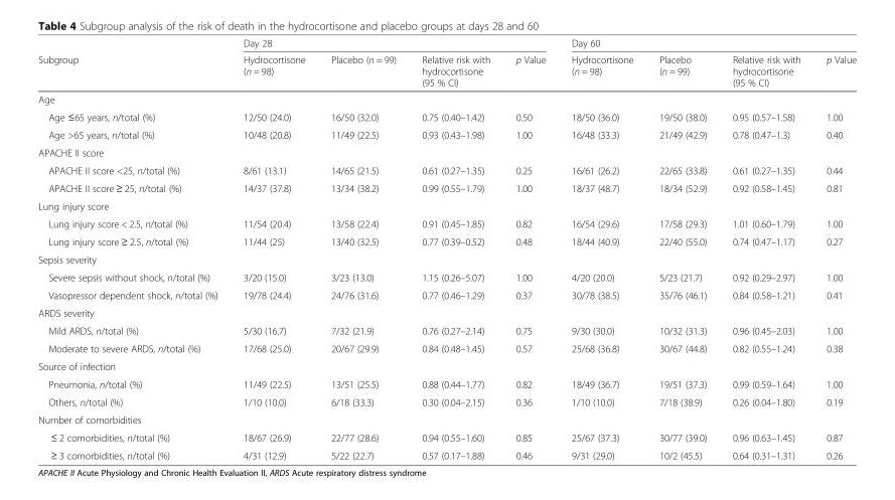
<table><thead><tr><td rowspan="2">Subgroup</td><td colspan="4">Day 28</td><td colspan="4">Day 60</td></tr><tr><td>Hydrocortisone (n = 98)</td><td>Placebo (n = 99)</td><td>Relative risk with hydrocortisone (95 % CI)</td><td>p Value</td><td>Hydrocortisone (n = 98)</td><td>Placebo (n = 99)</td><td>Relative risk with hydrocortisone (95 % CI)</td><td>p Value</td></tr></thead><tbody><tr><td colspan="9">Age</td></tr><tr><td>Age ≤65 years, n/total (%)</td><td>12/50 (24.0)</td><td>16/50 (32.0)</td><td>0.75 (0.40–1.42)</td><td>0.50</td><td>18/50 (36.0)</td><td>19/50 (38.0)</td><td>0.95 (0.57–1.58)</td><td>1.00</td></tr><tr><td>Age &gt;65 years, n/total (%)</td><td>10/48 (20.8)</td><td>11/49 (22.5)</td><td>0.93 (0.43–1.98)</td><td>1.00</td><td>16/48 (33.3)</td><td>21/49 (42.9)</td><td>0.78 (0.47–1.3)</td><td>0.40</td></tr><tr><td colspan="9">APACHE II score</td></tr><tr><td>APACHE II score &lt;25, n/total (%)</td><td>8/61 (13.1)</td><td>14/65 (21.5)</td><td>0.61 (0.27–1.35)</td><td>0.25</td><td>16/61 (26.2)</td><td>22/65 (33.8)</td><td>0.61 (0.27–1.35)</td><td>0.44</td></tr><tr><td>APACHE II score ≥ 25, n/total (%)</td><td>14/37 (37.8)</td><td>13/34 (38.2)</td><td>0.99 (0.55–1.79)</td><td>1.00</td><td>18/37 (48.7)</td><td>18/34 (52.9)</td><td>0.92 (0.58–1.45)</td><td>0.81</td></tr><tr><td colspan="9">Lung injury score</td></tr><tr><td>Lung injury score &lt; 2.5, n/total (%)</td><td>11/54 (20.4)</td><td>13/58 (22.4)</td><td>0.91 (0.45–1.85)</td><td>0.82</td><td>16/54 (29.6)</td><td>17/58 (29.3)</td><td>1.01 (0.60–1.79)</td><td>1.00</td></tr><tr><td>Lung injury score ≥ 2.5, n/total (%)</td><td>11/44 (25)</td><td>13/40 (32.5)</td><td>0.77 (0.39–0.52)</td><td>0.48</td><td>18/44 (40.9)</td><td>22/40 (55.0)</td><td>0.74 (0.47–1.17)</td><td>0.27</td></tr><tr><td colspan="9">Sepsis severity</td></tr><tr><td>Severe sepsis without shock, n/total (%)</td><td>3/20 (15.0)</td><td>3/23 (13.0)</td><td>1.15 (0.26–5.07)</td><td>1.00</td><td>4/20 (20.0)</td><td>5/23 (21.7)</td><td>0.92 (0.29–2.97)</td><td>1.00</td></tr><tr><td>Vasopressor dependent shock, n/total (%)</td><td>19/78 (24.4)</td><td>24/76 (31.6)</td><td>0.77 (0.46–1.29)</td><td>0.37</td><td>30/78 (38.5)</td><td>35/76 (46.1)</td><td>0.84 (0.58–1.21)</td><td>0.41</td></tr><tr><td colspan="9">ARDS severity</td></tr><tr><td>Mild ARDS, n/total (%)</td><td>5/30 (16.7)</td><td>7/32 (21.9)</td><td>0.76 (0.27–2.14)</td><td>0.75</td><td>9/30 (30.0)</td><td>10/32 (31.3)</td><td>0.96 (0.45–2.03)</td><td>1.00</td></tr><tr><td>Moderate to severe ARDS, n/total (%)</td><td>17/68 (25.0)</td><td>20/67 (29.9)</td><td>0.84 (0.48–1.45)</td><td>0.57</td><td>25/68 (36.8)</td><td>30/67 (44.8)</td><td>0.82 (0.55–1.24)</td><td>0.38</td></tr><tr><td colspan="9">Source of infection</td></tr><tr><td>Pneumonia, n/total (%)</td><td>11/49 (22.5)</td><td>13/51 (25.5)</td><td>0.88 (0.44–1.77)</td><td>0.82</td><td>18/49 (36.7)</td><td>19/51 (37.3)</td><td>0.99 (0.59–1.64)</td><td>1.00</td></tr><tr><td>Others, n/total (%)</td><td>1/10 (10.0)</td><td>6/18 (33.3)</td><td>0.30 (0.04–2.15)</td><td>0.36</td><td>1/10 (10.0)</td><td>7/18 (38.9)</td><td>0.26 (0.04–1.80)</td><td>0.19</td></tr><tr><td colspan="9">Number of comorbidities</td></tr><tr><td>≤ 2 comorbidities, n/total (%)</td><td>18/67 (26.9)</td><td>22/77 (28.6)</td><td>0.94 (0.55–1.60)</td><td>0.85</td><td>25/67 (37.3)</td><td>30/77 (39.0)</td><td>0.96 (0.63–1.45)</td><td>0.87</td></tr><tr><td>≥ 3 comorbidities, n/total (%)</td><td>4/31 (12.9)</td><td>5/22 (22.7)</td><td>0.57 (0.17–1.88)</td><td>0.46</td><td>9/31 (29.0)</td><td>10/2 (45.5)</td><td>0.64 (0.31–1.31)</td><td>0.26</td></tr></tbody></table>